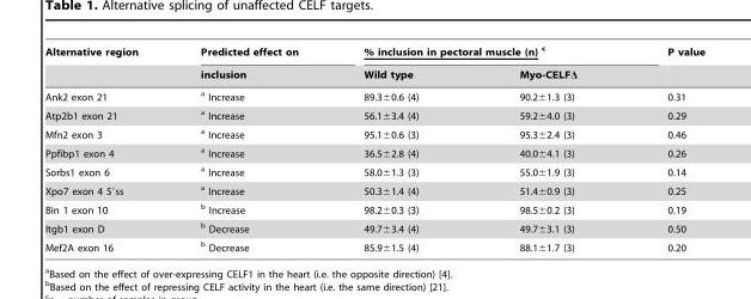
<table><thead><tr><td rowspan="2">Alternative region</td><td rowspan="2">Predicted effect on inclusion</td><td colspan="2">% inclusion in pectoral muscle (n) c</td><td rowspan="2">P value</td></tr><tr><td>Wild type</td><td>Myo-CELFΔ</td></tr></thead><tbody><tr><td>Ank2 exon 21</td><td>a Increase</td><td>89.3±0.6 (4)</td><td>90.2±1.3 (3)</td><td>0.31</td></tr><tr><td>Atp2b1 exon 21</td><td>a Increase</td><td>56.1±3.4 (4)</td><td>59.2±4.0 (3)</td><td>0.29</td></tr><tr><td>Mfn2 exon 3</td><td>a Increase</td><td>95.1±0.6 (3)</td><td>95.3±2.4 (3)</td><td>0.46</td></tr><tr><td>Ppfibp1 exon 4</td><td>a Increase</td><td>36.5±2.8 (4)</td><td>40.0±4.1 (3)</td><td>0.26</td></tr><tr><td>Sorbs1 exon 6</td><td>a Increase</td><td>58.0±1.3 (3)</td><td>55.0±1.9 (3)</td><td>0.14</td></tr><tr><td>Xpo7 exon 4 5′ss</td><td>a Increase</td><td>50.3±1.4 (4)</td><td>51.4±0.9 (3)</td><td>0.25</td></tr><tr><td>Bin 1 exon 10</td><td>b Increase</td><td>98.2±0.3 (3)</td><td>98.5±0.2 (3)</td><td>0.19</td></tr><tr><td>Itgb1 exon D</td><td>b Decrease</td><td>49.7±3.4 (4)</td><td>49.7±3.1 (3)</td><td>0.50</td></tr><tr><td>Mef2A exon 16</td><td>b Decrease</td><td>85.9±1.5 (4)</td><td>88.1±1.7 (3)</td><td>0.20</td></tr></tbody></table>